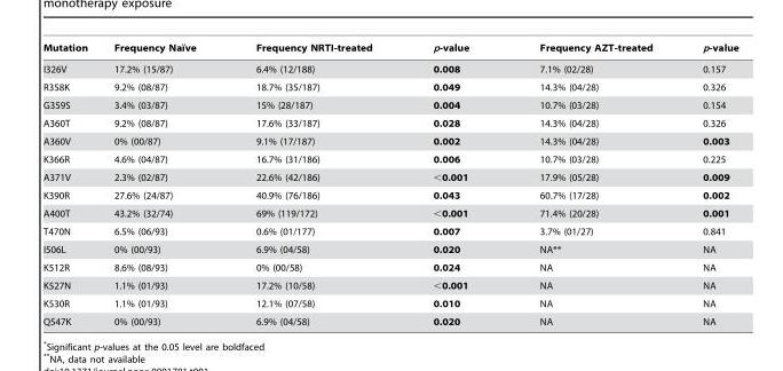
<table><thead><tr><td>Mutation</td><td>Frequency Naı¨ve</td><td>Frequency NRTI-treated</td><td>p-value</td><td>Frequency AZT-treated</td><td>p-value</td></tr></thead><tbody><tr><td>I326V</td><td>17.2% (15/87)</td><td>6.4% (12/188)</td><td>0.008</td><td>7.1% (02/28)</td><td>0.157</td></tr><tr><td>R358K</td><td>9.2% (08/87)</td><td>18.7% (35/187)</td><td>0.049</td><td>14.3% (04/28)</td><td>0.326</td></tr><tr><td>G359S</td><td>3.4% (03/87)</td><td>15% (28/187)</td><td>0.004</td><td>10.7% (03/28)</td><td>0.154</td></tr><tr><td>A360T</td><td>9.2% (08/87)</td><td>17.6% (33/187)</td><td>0.028</td><td>14.3% (04/28)</td><td>0.326</td></tr><tr><td>A360V</td><td>0% (00/87)</td><td>9.1% (17/187)</td><td>0.002</td><td>14.3% (04/28)</td><td>0.003</td></tr><tr><td>K366R</td><td>4.6% (04/87)</td><td>16.7% (31/186)</td><td>0.006</td><td>10.7% (03/28)</td><td>0.225</td></tr><tr><td>A371V</td><td>2.3% (02/87)</td><td>22.6% (42/186)</td><td>&lt;0.001</td><td>17.9% (05/28)</td><td>0.009</td></tr><tr><td>K390R</td><td>27.6% (24/87)</td><td>40.9% (76/186)</td><td>0.043</td><td>60.7% (17/28)</td><td>0.002</td></tr><tr><td>A400T</td><td>43.2% (32/74)</td><td>69% (119/172)</td><td>&lt;0.001</td><td>71.4% (20/28)</td><td>0.001</td></tr><tr><td>T470N</td><td>6.5% (06/93)</td><td>0.6% (01/177)</td><td>0.007</td><td>3.7% (01/27)</td><td>0.841</td></tr><tr><td>I506L</td><td>0% (00/93)</td><td>6.9% (04/58)</td><td>0.020</td><td>NA**</td><td>NA</td></tr><tr><td>K512R</td><td>8.6% (08/93)</td><td>0% (00/58)</td><td>0.024</td><td>NA</td><td>NA</td></tr><tr><td>K527N</td><td>1.1% (01/93)</td><td>17.2% (10/58)</td><td>&lt;0.001</td><td>NA</td><td>NA</td></tr><tr><td>K530R</td><td>1.1% (01/93)</td><td>12.1% (07/58)</td><td>0.010</td><td>NA</td><td>NA</td></tr><tr><td>Q547K</td><td>0% (00/93)</td><td>6.9% (04/58)</td><td>0.020</td><td>NA</td><td>NA</td></tr></tbody></table>